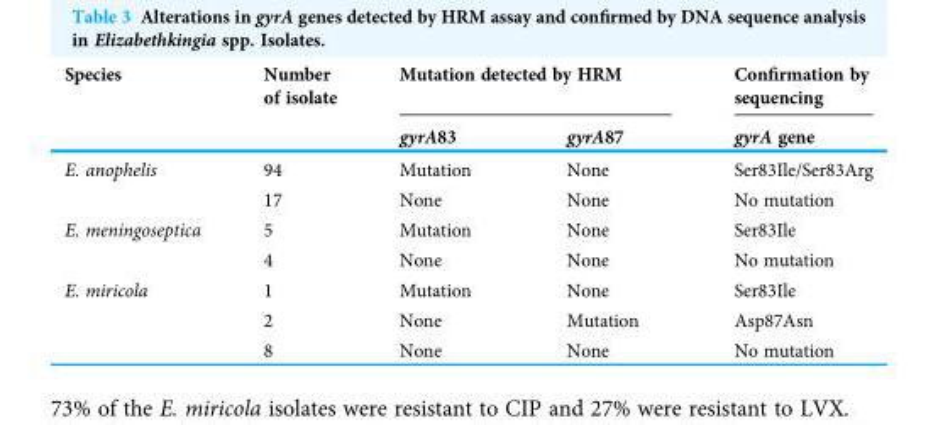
<table><thead><tr><td rowspan="2">Species</td><td rowspan="2">Number of isolate</td><td colspan="2">Mutation detected by HRM</td><td rowspan="2">Confirmation by sequencing gyrA gene</td></tr><tr><td>gyrA83</td><td>gyrA87</td></tr></thead><tbody><tr><td rowspan="2">E. anophelis</td><td>94</td><td>Mutation</td><td>None</td><td>Ser83Ile/Ser83Arg</td></tr><tr><td>17</td><td>None</td><td>None</td><td>No mutation</td></tr><tr><td rowspan="2">E. meningoseptica</td><td>5</td><td>Mutation</td><td>None</td><td>Ser83Ile</td></tr><tr><td>4</td><td>None</td><td>None</td><td>No mutation</td></tr><tr><td rowspan="3">E. miricola</td><td>1</td><td>Mutation</td><td>None</td><td>Ser83Ile</td></tr><tr><td>2</td><td>None</td><td>Mutation</td><td>Asp87Asn</td></tr><tr><td>8</td><td>None</td><td>None</td><td>No mutation</td></tr></tbody></table>